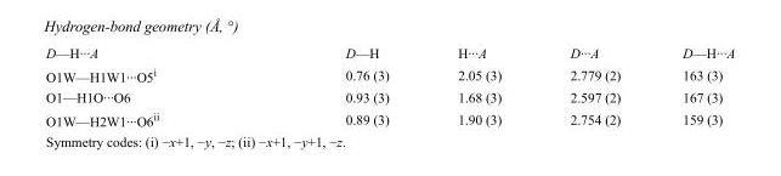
<table><tbody><tr><td>D—H···A</td><td>D—H</td><td>H···A</td><td>D···A</td><td>D—H···A</td></tr><tr><td>O1W—H1W1···O5<sup>i</sup></td><td>0.76 (3)</td><td>2.05 (3)</td><td>2.779 (2)</td><td>163 (3)</td></tr><tr><td>O1—H1O···O6</td><td>0.93 (3)</td><td>1.68 (3)</td><td>2.597 (2)</td><td>167 (3)</td></tr><tr><td>O1W—H2W1···O6<sup>ii</sup></td><td>0.89 (3)</td><td>1.90 (3)</td><td>2.754 (2)</td><td>159 (3)</td></tr></tbody></table>